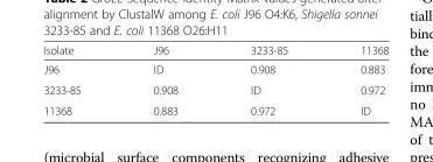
<table><thead><tr><td>Isolate</td><td>J96</td><td>3233-85</td><td>11368</td></tr></thead><tbody><tr><td>J96</td><td>ID</td><td>0.908</td><td>0.883</td></tr><tr><td>3233-85</td><td>0.908</td><td>ID</td><td>0.972</td></tr><tr><td>11368</td><td>0.883</td><td>0.972</td><td>ID</td></tr></tbody></table>